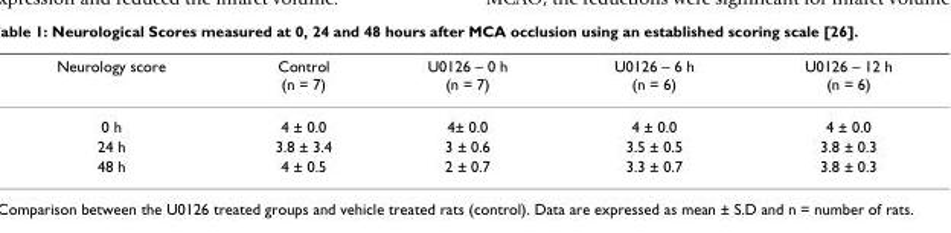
<table><thead><tr><td>Neurology score</td><td>Control (n = 7)</td><td>U0126 – 0 h (n = 7)</td><td>U0126 – 6 h (n = 6)</td><td>U0126 – 12 h (n = 6)</td></tr></thead><tbody><tr><td>0 h</td><td>4 ± 0.0</td><td>4± 0.0</td><td>4 ± 0.0</td><td>4 ± 0.0</td></tr><tr><td>24 h</td><td>3.8 ± 3.4</td><td>3 ± 0.6</td><td>3.5 ± 0.5</td><td>3.8 ± 0.3</td></tr><tr><td>48 h</td><td>4 ± 0.5</td><td>2 ± 0.7</td><td>3.3 ± 0.7</td><td>3.8 ± 0.3</td></tr></tbody></table>